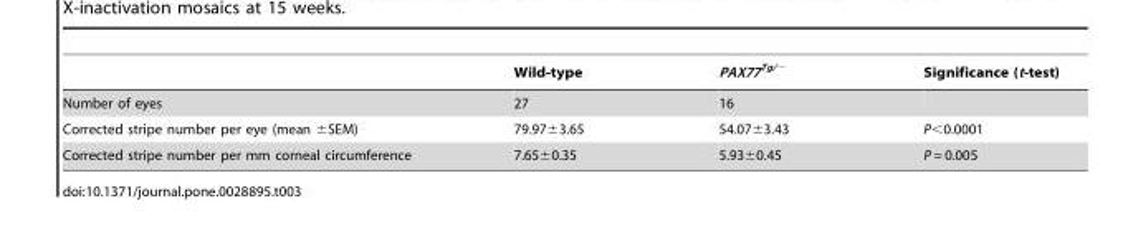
<table><thead><tr><td></td><td>Wild-type</td><td>PAX77<sup>Tg/−</sup></td><td>Significance (t-test)</td></tr></thead><tbody><tr><td>Number of eyes</td><td>27</td><td>16</td><td></td></tr><tr><td>Corrected stripe number per eye (mean ±SEM)</td><td>79.97±3.65</td><td>54.07±3.43</td><td>P&lt;0.0001</td></tr><tr><td>Corrected stripe number per mm corneal circumference</td><td>7.65±0.35</td><td>5.93±0.45</td><td>P = 0.005</td></tr></tbody></table>